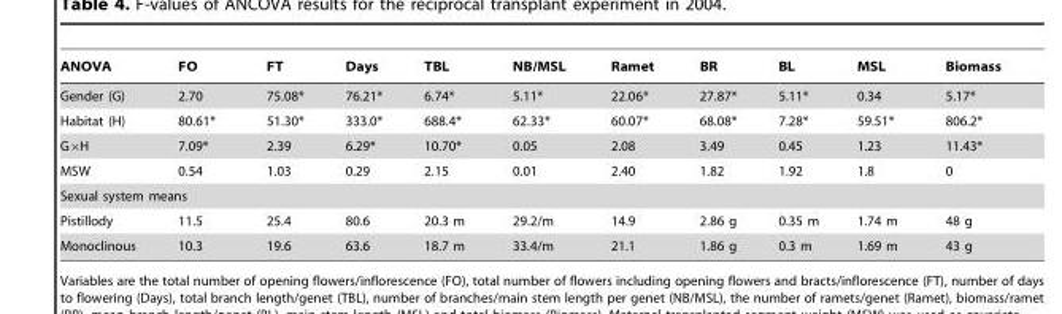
<table><thead><tr><td>ANOVA</td><td>FO</td><td>FT</td><td>Days</td><td>TBL</td><td>NB/MSL</td><td>Ramet</td><td>BR</td><td>BL</td><td>MSL</td><td>Biomass</td></tr></thead><tbody><tr><td>Gender (G)</td><td>2.70</td><td>75.08*</td><td>76.21*</td><td>6.74*</td><td>5.11*</td><td>22.06*</td><td>27.87*</td><td>5.11*</td><td>0.34</td><td>5.17*</td></tr><tr><td>Habitat (H)</td><td>80.61*</td><td>51.30*</td><td>333.0*</td><td>688.4*</td><td>62.33*</td><td>60.07*</td><td>68.08*</td><td>7.28*</td><td>59.51*</td><td>806.2*</td></tr><tr><td>G×H</td><td>7.09*</td><td>2.39</td><td>6.29*</td><td>10.70*</td><td>0.05</td><td>2.08</td><td>3.49</td><td>0.45</td><td>1.23</td><td>11.43*</td></tr><tr><td>MSW</td><td>0.54</td><td>1.03</td><td>0.29</td><td>2.15</td><td>0.01</td><td>2.40</td><td>1.82</td><td>1.92</td><td>1.8</td><td>0</td></tr><tr><td colspan="11">Sexual system means</td></tr><tr><td>Pistillody</td><td>11.5</td><td>25.4</td><td>80.6</td><td>20.3 m</td><td>29.2/m</td><td>14.9</td><td>2.86 g</td><td>0.35 m</td><td>1.74 m</td><td>48 g</td></tr><tr><td>Monoclinous</td><td>10.3</td><td>19.6</td><td>63.6</td><td>18.7 m</td><td>33.4/m</td><td>21.1</td><td>1.86 g</td><td>0.3 m</td><td>1.69 m</td><td>43 g</td></tr></tbody></table>